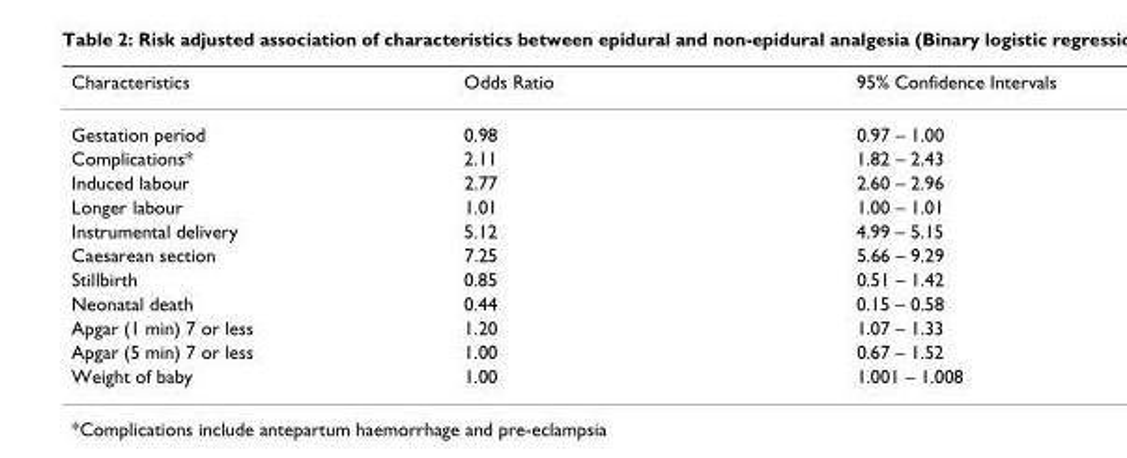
<table><thead><tr><td>Characteristics</td><td>Odds Ratio</td><td>95% Confidence Intervals</td></tr></thead><tbody><tr><td>Gestation period</td><td>0.98</td><td>0.97 – 1.00</td></tr><tr><td>Complications*</td><td>2.11</td><td>1.82 – 2.43</td></tr><tr><td>Induced labour</td><td>2.77</td><td>2.60 – 2.96</td></tr><tr><td>Longer labour</td><td>1.01</td><td>1.00 – 1.01</td></tr><tr><td>Instrumental delivery</td><td>5.12</td><td>4.99 – 5.15</td></tr><tr><td>Caesarean section</td><td>7.25</td><td>5.66 – 9.29</td></tr><tr><td>Stillbirth</td><td>0.85</td><td>0.51 – 1.42</td></tr><tr><td>Neonatal death</td><td>0.44</td><td>0.15 – 0.58</td></tr><tr><td>Apgar (1 min) 7 or less</td><td>1.20</td><td>1.07 – 1.33</td></tr><tr><td>Apgar (5 min) 7 or less</td><td>1.00</td><td>0.67 – 1.52</td></tr><tr><td>Weight of baby</td><td>1.00</td><td>1.001 – 1.008</td></tr></tbody></table>